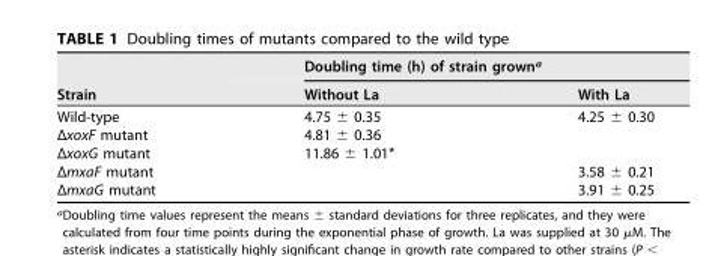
<table><thead><tr><td rowspan="2">Strain</td><td colspan="2">Doubling time (h) of strain grown<sup>a</sup></td></tr><tr><td>Without La</td><td>With La</td></tr></thead><tbody><tr><td>Wild-type</td><td>4.75 ± 0.35</td><td>4.25 ± 0.30</td></tr><tr><td>ΔxoxF mutant</td><td>4.81 ± 0.36</td><td></td></tr><tr><td>ΔxoxG mutant</td><td>11.86 ± 1.01*</td><td></td></tr><tr><td>ΔmxaF mutant</td><td></td><td>3.58 ± 0.21</td></tr><tr><td>ΔmxaG mutant</td><td></td><td>3.91 ± 0.25</td></tr></tbody></table>